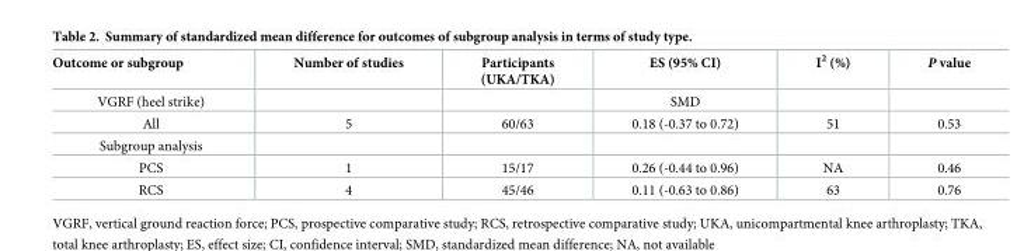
<table><thead><tr><td>Outcome or subgroup</td><td>Number of studies</td><td>Participants (UKA/TKA)</td><td>ES (95% CI)</td><td>I<sup>2</sup> (%)</td><td>P value</td></tr></thead><tbody><tr><td>VGRF (heel strike)</td><td></td><td></td><td>SMD</td><td></td><td></td></tr><tr><td>All</td><td>5</td><td>60/63</td><td>0.18 (-0.37 to 0.72)</td><td>51</td><td>0.53</td></tr><tr><td colspan="6">Subgroup analysis</td></tr><tr><td>PCS</td><td>1</td><td>15/17</td><td>0.26 (-0.44 to 0.96)</td><td>NA</td><td>0.46</td></tr><tr><td>RCS</td><td>4</td><td>45/46</td><td>0.11 (-0.63 to 0.86)</td><td>63</td><td>0.76</td></tr></tbody></table>